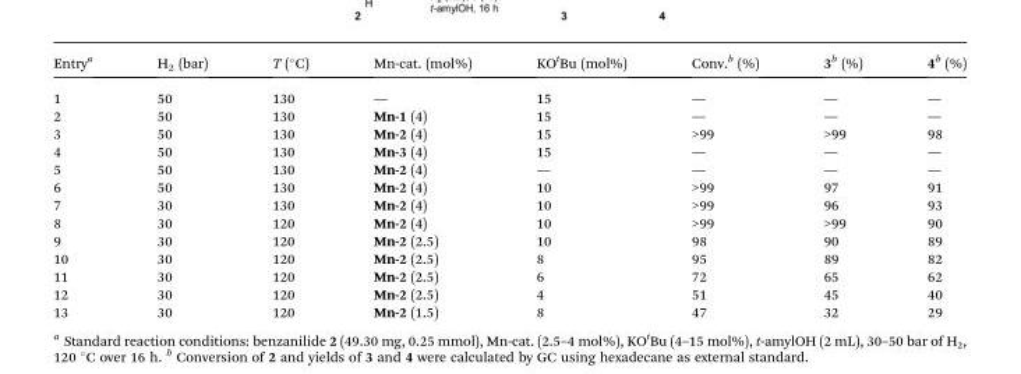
<table><thead><tr><td>Entry<sup>a</sup></td><td>H<sub>2</sub> (bar)</td><td>T (°C)</td><td>Mn-cat. (mol%)</td><td>KO<sup>t</sup>Bu (mol%)</td><td>Conv.<sup>b</sup> (%)</td><td>3<sup>b</sup> (%)</td><td>4<sup>b</sup> (%)</td></tr></thead><tbody><tr><td>1</td><td>50</td><td>130</td><td>—</td><td>15</td><td>—</td><td>—</td><td>—</td></tr><tr><td>2</td><td>50</td><td>130</td><td>Mn-1 (4)</td><td>15</td><td>—</td><td>—</td><td>—</td></tr><tr><td>3</td><td>50</td><td>130</td><td>Mn-2 (4)</td><td>15</td><td>&gt;99</td><td>&gt;99</td><td>98</td></tr><tr><td>4</td><td>50</td><td>130</td><td>Mn-3 (4)</td><td>15</td><td>—</td><td>—</td><td>—</td></tr><tr><td>5</td><td>50</td><td>130</td><td>Mn-2 (4)</td><td>—</td><td>—</td><td>—</td><td>—</td></tr><tr><td>6</td><td>50</td><td>130</td><td>Mn-2 (4)</td><td>10</td><td>&gt;99</td><td>97</td><td>91</td></tr><tr><td>7</td><td>30</td><td>130</td><td>Mn-2 (4)</td><td>10</td><td>&gt;99</td><td>96</td><td>93</td></tr><tr><td>8</td><td>30</td><td>120</td><td>Mn-2 (4)</td><td>10</td><td>&gt;99</td><td>&gt;99</td><td>90</td></tr><tr><td>9</td><td>30</td><td>120</td><td>Mn-2 (2.5)</td><td>10</td><td>98</td><td>90</td><td>89</td></tr><tr><td>10</td><td>30</td><td>120</td><td>Mn-2 (2.5)</td><td>8</td><td>95</td><td>89</td><td>82</td></tr><tr><td>11</td><td>30</td><td>120</td><td>Mn-2 (2.5)</td><td>6</td><td>72</td><td>65</td><td>62</td></tr><tr><td>12</td><td>30</td><td>120</td><td>Mn-2 (2.5)</td><td>4</td><td>51</td><td>45</td><td>40</td></tr><tr><td>13</td><td>30</td><td>120</td><td>Mn-2 (1.5)</td><td>8</td><td>47</td><td>32</td><td>29</td></tr></tbody></table>